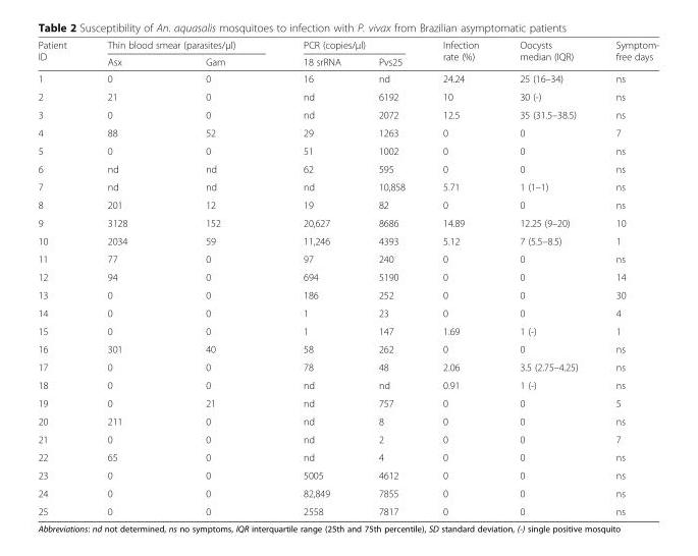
<table><thead><tr><td rowspan="2">Patient ID</td><td colspan="2">Thin blood smear (parasites/μl)</td><td colspan="2">PCR (copies/μl)</td><td rowspan="2">Infection rate (%)</td><td rowspan="2">Oocysts median (IQR)</td><td rowspan="2">Symptom- free days</td></tr><tr><td>Asx</td><td>Gam</td><td>18 srRNA</td><td>Pvs25</td></tr></thead><tbody><tr><td>1</td><td>0</td><td>0</td><td>16</td><td>nd</td><td>24.24</td><td>25 (16–34)</td><td>ns</td></tr><tr><td>2</td><td>21</td><td>0</td><td>nd</td><td>6192</td><td>10</td><td>30 (-)</td><td>ns</td></tr><tr><td>3</td><td>0</td><td>0</td><td>nd</td><td>2072</td><td>12.5</td><td>35 (31.5–38.5)</td><td>ns</td></tr><tr><td>4</td><td>88</td><td>52</td><td>29</td><td>1263</td><td>0</td><td>0</td><td>7</td></tr><tr><td>5</td><td>0</td><td>0</td><td>51</td><td>1002</td><td>0</td><td>0</td><td>ns</td></tr><tr><td>6</td><td>nd</td><td>nd</td><td>62</td><td>595</td><td>0</td><td>0</td><td>ns</td></tr><tr><td>7</td><td>nd</td><td>nd</td><td>nd</td><td>10,858</td><td>5.71</td><td>1 (1–1)</td><td>ns</td></tr><tr><td>8</td><td>201</td><td>12</td><td>19</td><td>82</td><td>0</td><td>0</td><td>ns</td></tr><tr><td>9</td><td>3128</td><td>152</td><td>20,627</td><td>8686</td><td>14.89</td><td>12.25 (9–20)</td><td>10</td></tr><tr><td>10</td><td>2034</td><td>59</td><td>11,246</td><td>4393</td><td>5.12</td><td>7 (5.5–8.5)</td><td>1</td></tr><tr><td>11</td><td>77</td><td>0</td><td>97</td><td>240</td><td>0</td><td>0</td><td>ns</td></tr><tr><td>12</td><td>94</td><td>0</td><td>694</td><td>5190</td><td>0</td><td>0</td><td>14</td></tr><tr><td>13</td><td>0</td><td>0</td><td>186</td><td>252</td><td>0</td><td>0</td><td>30</td></tr><tr><td>14</td><td>0</td><td>0</td><td>1</td><td>23</td><td>0</td><td>0</td><td>4</td></tr><tr><td>15</td><td>0</td><td>0</td><td>1</td><td>147</td><td>1.69</td><td>1 (-)</td><td>1</td></tr><tr><td>16</td><td>301</td><td>40</td><td>58</td><td>262</td><td>0</td><td>0</td><td>ns</td></tr><tr><td>17</td><td>0</td><td>0</td><td>78</td><td>48</td><td>2.06</td><td>3.5 (2.75–4.25)</td><td>ns</td></tr><tr><td>18</td><td>0</td><td>0</td><td>nd</td><td>nd</td><td>0.91</td><td>1 (-)</td><td>ns</td></tr><tr><td>19</td><td>0</td><td>21</td><td>nd</td><td>757</td><td>0</td><td>0</td><td>5</td></tr><tr><td>20</td><td>211</td><td>0</td><td>nd</td><td>8</td><td>0</td><td>0</td><td>ns</td></tr><tr><td>21</td><td>0</td><td>0</td><td>nd</td><td>2</td><td>0</td><td>0</td><td>7</td></tr><tr><td>22</td><td>65</td><td>0</td><td>nd</td><td>4</td><td>0</td><td>0</td><td>ns</td></tr><tr><td>23</td><td>0</td><td>0</td><td>5005</td><td>4612</td><td>0</td><td>0</td><td>ns</td></tr><tr><td>24</td><td>0</td><td>0</td><td>82,849</td><td>7855</td><td>0</td><td>0</td><td>ns</td></tr><tr><td>25</td><td>0</td><td>0</td><td>2558</td><td>7817</td><td>0</td><td>0</td><td>ns</td></tr></tbody></table>